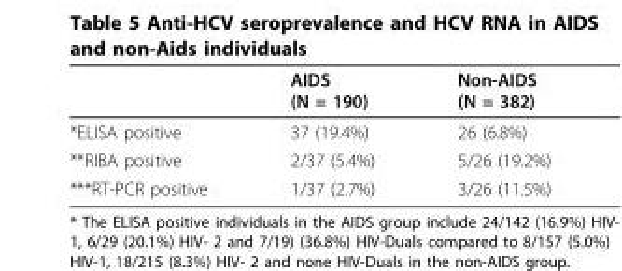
<table><thead><tr><td></td><td>AIDS (N = 190)</td><td>Non-AIDS (N = 382)</td></tr></thead><tbody><tr><td>*ELISA positive</td><td>37 (19.4%)</td><td>26 (6.8%)</td></tr><tr><td>**RIBA positive</td><td>2/37 (5.4%)</td><td>5/26 (19.2%)</td></tr><tr><td>***RT-PCR positive</td><td>1/37 (2.7%)</td><td>3/26 (11.5%)</td></tr></tbody></table>